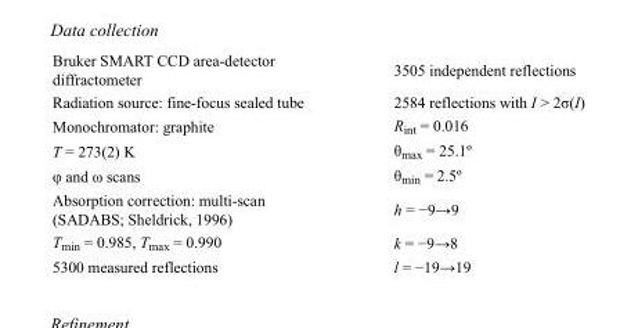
<table><tbody><tr><td>Bruker SMART CCD area-detector diffractometer</td><td>3505 independent reflections</td></tr><tr><td>Radiation source: fine-focus sealed tube</td><td>2584 reflections with I &gt; 2σ(I)</td></tr><tr><td>Monochromator: graphite</td><td>R<sub>int</sub> = 0.016</td></tr><tr><td>T = 273(2) K</td><td>θ<sub>max</sub> = 25.1º</td></tr><tr><td>φ and ω scans</td><td>θ<sub>min</sub> = 2.5º</td></tr><tr><td>Absorption correction: multi-scan (SADABS; Sheldrick, 1996)</td><td>h = −9→9</td></tr><tr><td>T<sub>min</sub> = 0.985, T<sub>max</sub> = 0.990</td><td>k = −9→8</td></tr><tr><td>5300 measured reflections</td><td>l = −19→19</td></tr></tbody></table>